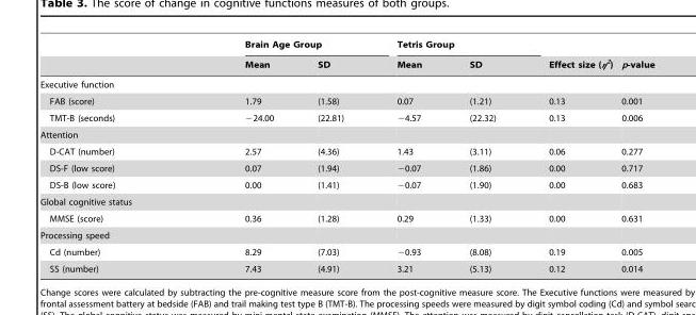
<table><thead><tr><td rowspan="2"></td><td colspan="2">Brain Age Group</td><td colspan="2">Tetris Group</td><td rowspan="2">Effect size (η<sup>2</sup>)</td><td rowspan="2">p-value</td></tr><tr><td>Mean</td><td>SD</td><td>Mean</td><td>SD</td></tr></thead><tbody><tr><td colspan="7">Executive function</td></tr><tr><td>FAB (score)</td><td>1.79</td><td>(1.58)</td><td>0.07</td><td>(1.21)</td><td>0.13</td><td>0.001</td></tr><tr><td>TMT-B (seconds)</td><td>−24.00</td><td>(22.81)</td><td>−4.57</td><td>(22.32)</td><td>0.13</td><td>0.006</td></tr><tr><td colspan="7">Attention</td></tr><tr><td>D-CAT (number)</td><td>2.57</td><td>(4.36)</td><td>1.43</td><td>(3.11)</td><td>0.06</td><td>0.277</td></tr><tr><td>DS-F (low score)</td><td>0.07</td><td>(1.94)</td><td>−0.07</td><td>(1.86)</td><td>0.00</td><td>0.717</td></tr><tr><td>DS-B (low score)</td><td>0.00</td><td>(1.41)</td><td>−0.07</td><td>(1.90)</td><td>0.00</td><td>0.683</td></tr><tr><td colspan="7">Global cognitive status</td></tr><tr><td>MMSE (score)</td><td>0.36</td><td>(1.28)</td><td>0.29</td><td>(1.33)</td><td>0.00</td><td>0.631</td></tr><tr><td colspan="7">Processing speed</td></tr><tr><td>Cd (number)</td><td>8.29</td><td>(7.03)</td><td>−0.93</td><td>(8.08)</td><td>0.19</td><td>0.005</td></tr><tr><td>SS (number)</td><td>7.43</td><td>(4.91)</td><td>3.21</td><td>(5.13)</td><td>0.12</td><td>0.014</td></tr></tbody></table>